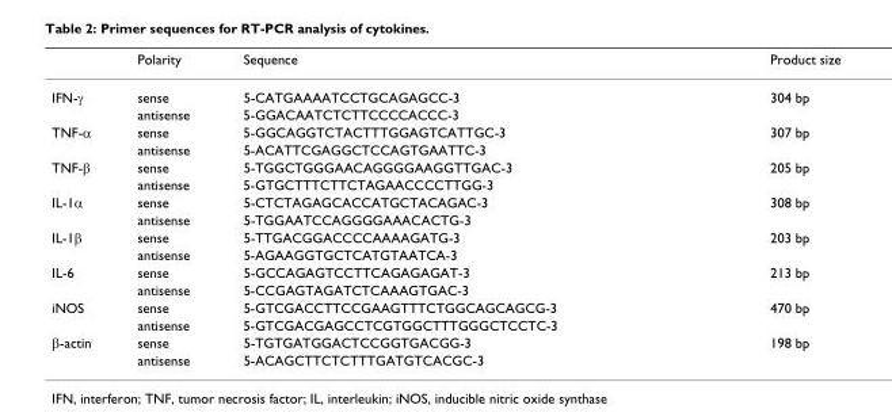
<table><thead><tr><td></td><td>Polarity</td><td>Sequence</td><td>Product size</td></tr></thead><tbody><tr><td rowspan="2">IFN-γ</td><td>sense</td><td>5-CATGAAAATCCTGCAGAGCC-3</td><td>304 bp</td></tr><tr><td>antisense</td><td>5-GGACAATCTCTTCCCCACCC-3</td><td></td></tr><tr><td rowspan="2">TNF-α</td><td>sense</td><td>5-GGCAGGTCTACTTTGGAGTCATTGC-3</td><td>307 bp</td></tr><tr><td>antisense</td><td>5-ACATTCGAGGCTCCAGTGAATTC-3</td><td></td></tr><tr><td rowspan="2">TNF-β</td><td>sense</td><td>5-TGGCTGGGAACAGGGGAAGGTTGAC-3</td><td>205 bp</td></tr><tr><td>antisense</td><td>5-GTGCTTTCTTCTAGAACCCCTTGG-3</td><td></td></tr><tr><td rowspan="2">IL-1α</td><td>sense</td><td>5-CTCTAGAGCACCATGCTACAGAC-3</td><td>308 bp</td></tr><tr><td>antisense</td><td>5-TGGAATCCAGGGGAAACACTG-3</td><td></td></tr><tr><td rowspan="2">IL-1β</td><td>sense</td><td>5-TTGACGGACCCCAAAAGATG-3</td><td>203 bp</td></tr><tr><td>antisense</td><td>5-AGAAGGTGCTCATGTAATCA-3</td><td></td></tr><tr><td rowspan="2">IL-6</td><td>sense</td><td>5-GCCAGAGTCCTTCAGAGAGAT-3</td><td>213 bp</td></tr><tr><td>antisense</td><td>5-CCGAGTAGATCTCAAAGTGAC-3</td><td></td></tr><tr><td rowspan="2">iNOS</td><td>sense</td><td>5-GTCGACCTTCCGAAGTTTCTGGCAGCAGCG-3</td><td>470 bp</td></tr><tr><td>antisense</td><td>5-GTCGACGAGCCTCGTGGCTTTGGGCTCCTC-3</td><td></td></tr><tr><td rowspan="2">β-actin</td><td>sense</td><td>5-TGTGATGGACTCCGGTGACGG-3</td><td>198 bp</td></tr><tr><td>antisense</td><td>5-ACAGCTTCTCTTTGATGTCACGC-3</td><td></td></tr></tbody></table>